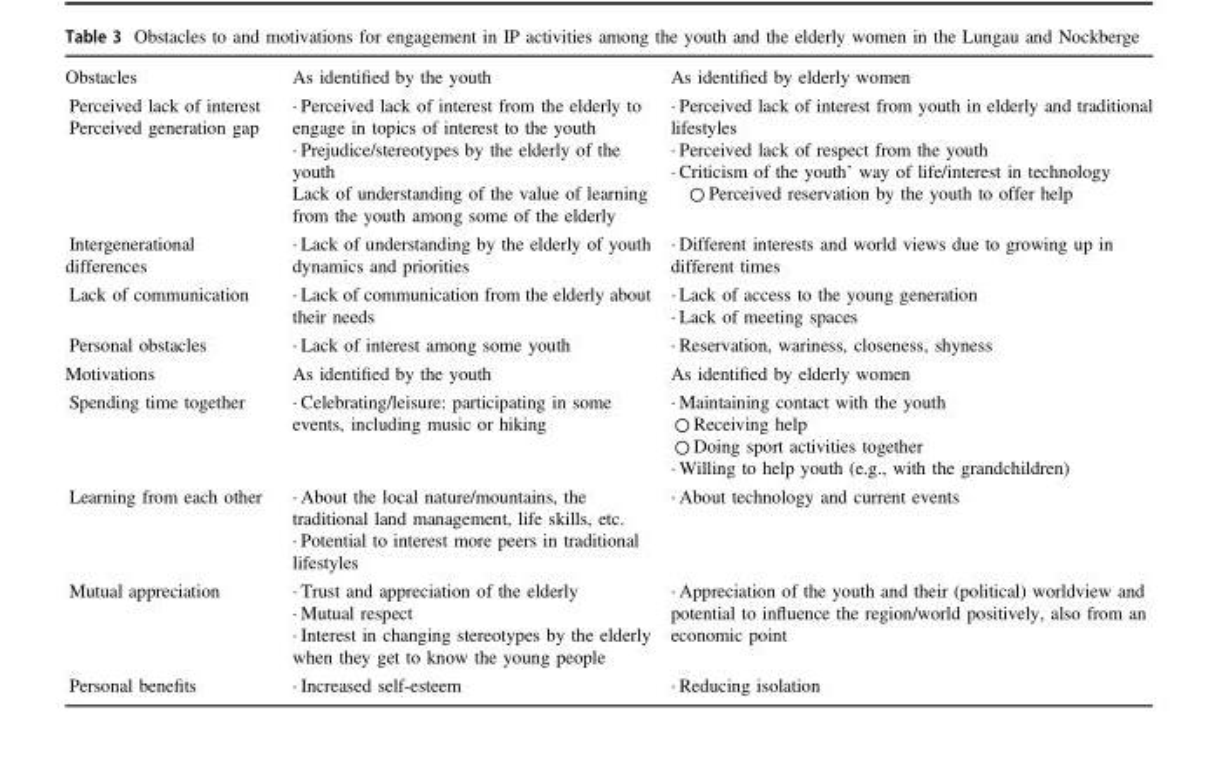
<table><tbody><tr><td>Obstacles</td><td>As identified by the youth</td><td>As identified by elderly women</td></tr><tr><td>Perceived lack of interest Perceived generation gap</td><td>∙ Perceived lack of interest from the elderly to engage in topics of interest to the youth ∙ Prejudice/stereotypes by the elderly of the youth Lack of understanding of the value of learning from the youth among some of the elderly</td><td>∙ Perceived lack of interest from youth in elderly and traditional lifestyles ∙ Perceived lack of respect from the youth ∙ Criticism of the youth’ way of life/interest in technology ○ Perceived reservation by the youth to offer help</td></tr><tr><td>Intergenerational differences</td><td>∙ Lack of understanding by the elderly of youth dynamics and priorities</td><td>∙ Different interests and world views due to growing up in different times</td></tr><tr><td>Lack of communication</td><td>∙ Lack of communication from the elderly about their needs</td><td>∙ Lack of access to the young generation ∙ Lack of meeting spaces</td></tr><tr><td>Personal obstacles</td><td>∙ Lack of interest among some youth</td><td>∙ Reservation, wariness, closeness, shyness</td></tr><tr><td>Motivations</td><td>As identified by the youth</td><td>As identified by elderly women</td></tr><tr><td>Spending time together</td><td>∙ Celebrating/leisure: participating in some events, including music or hiking</td><td>∙ Maintaining contact with the youth ○ Receiving help ○ Doing sport activities together ∙ Willing to help youth (e.g., with the grandchildren)</td></tr><tr><td>Learning from each other</td><td>∙ About the local nature/mountains, the traditional land management, life skills, etc. ∙ Potential to interest more peers in traditional lifestyles</td><td>∙ About technology and current events</td></tr><tr><td>Mutual appreciation</td><td>∙ Trust and appreciation of the elderly ∙ Mutual respect ∙ Interest in changing stereotypes by the elderly when they get to know the young people</td><td>∙ Appreciation of the youth and their (political) worldview and potential to influence the region/world positively, also from an economic point</td></tr><tr><td>Personal benefits</td><td>∙ Increased self-esteem</td><td>∙ Reducing isolation</td></tr></tbody></table>